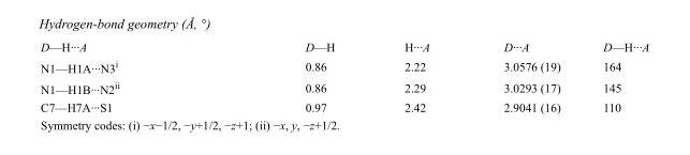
<table><tbody><tr><td>D—H···A</td><td>D—H</td><td>H···A</td><td>D···A</td><td>D—H···A</td></tr><tr><td>N1—H1A···N3<sup>i</sup></td><td>0.86</td><td>2.22</td><td>3.0576 (19)</td><td>164</td></tr><tr><td>N1—H1B···N2<sup>ii</sup></td><td>0.86</td><td>2.29</td><td>3.0293 (17)</td><td>145</td></tr><tr><td>C7—H7A···S1</td><td>0.97</td><td>2.42</td><td>2.9041 (16)</td><td>110</td></tr></tbody></table>